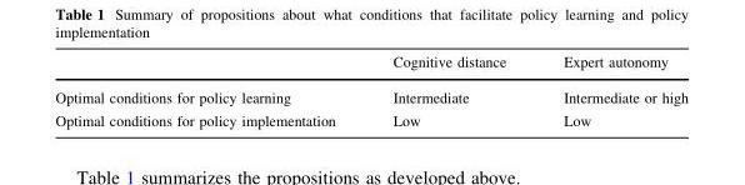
<table><thead><tr><td></td><td>Cognitive distance</td><td>Expert autonomy</td></tr></thead><tbody><tr><td>Optimal conditions for policy learning</td><td>Intermediate</td><td>Intermediate or high</td></tr><tr><td>Optimal conditions for policy implementation</td><td>Low</td><td>Low</td></tr></tbody></table>